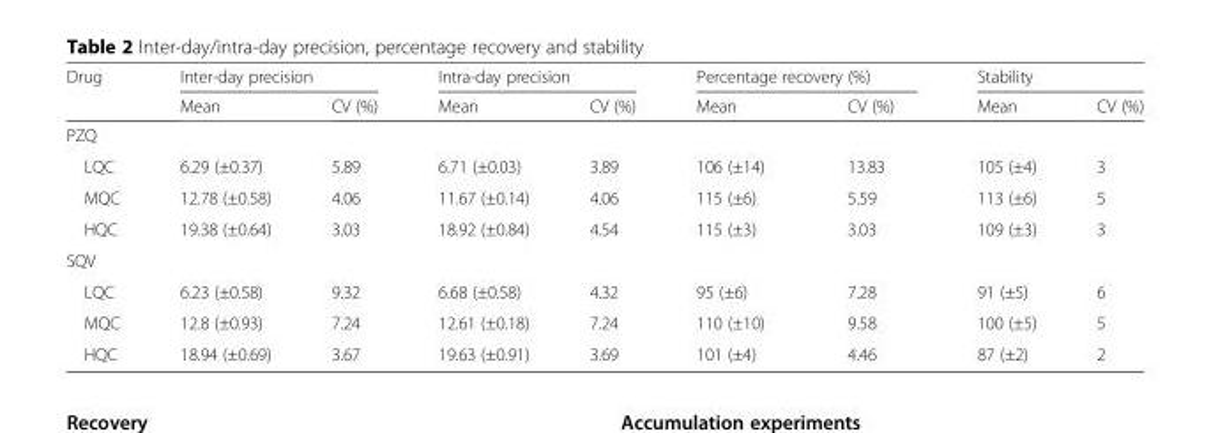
<table><thead><tr><td rowspan="2">Drug</td><td colspan="2">Inter-day precision</td><td colspan="2">Intra-day precision</td><td colspan="2">Percentage recovery (%)</td><td colspan="2">Stability</td></tr><tr><td>Mean</td><td>CV (%)</td><td>Mean</td><td>CV (%)</td><td>Mean</td><td>CV (%)</td><td>Mean</td><td>CV (%)</td></tr></thead><tbody><tr><td colspan="9">PZQ</td></tr><tr><td>LQC</td><td>6.29 (±0.37)</td><td>5.89</td><td>6.71 (±0.03)</td><td>3.89</td><td>106 (±14)</td><td>13.83</td><td>105 (±4)</td><td>3</td></tr><tr><td>MQC</td><td>12.78 (±0.58)</td><td>4.06</td><td>11.67 (±0.14)</td><td>4.06</td><td>115 (±6)</td><td>5.59</td><td>113 (±6)</td><td>5</td></tr><tr><td>HQC</td><td>19.38 (±0.64)</td><td>3.03</td><td>18.92 (±0.84)</td><td>4.54</td><td>115 (±3)</td><td>3.03</td><td>109 (±3)</td><td>3</td></tr><tr><td colspan="9">SQV</td></tr><tr><td>LQC</td><td>6.23 (±0.58)</td><td>9.32</td><td>6.68 (±0.58)</td><td>4.32</td><td>95 (±6)</td><td>7.28</td><td>91 (±5)</td><td>6</td></tr><tr><td>MQC</td><td>12.8 (±0.93)</td><td>7.24</td><td>12.61 (±0.18)</td><td>7.24</td><td>110 (±10)</td><td>9.58</td><td>100 (±5)</td><td>5</td></tr><tr><td>HQC</td><td>18.94 (±0.69)</td><td>3.67</td><td>19.63 (±0.91)</td><td>3.69</td><td>101 (±4)</td><td>4.46</td><td>87 (±2)</td><td>2</td></tr></tbody></table>